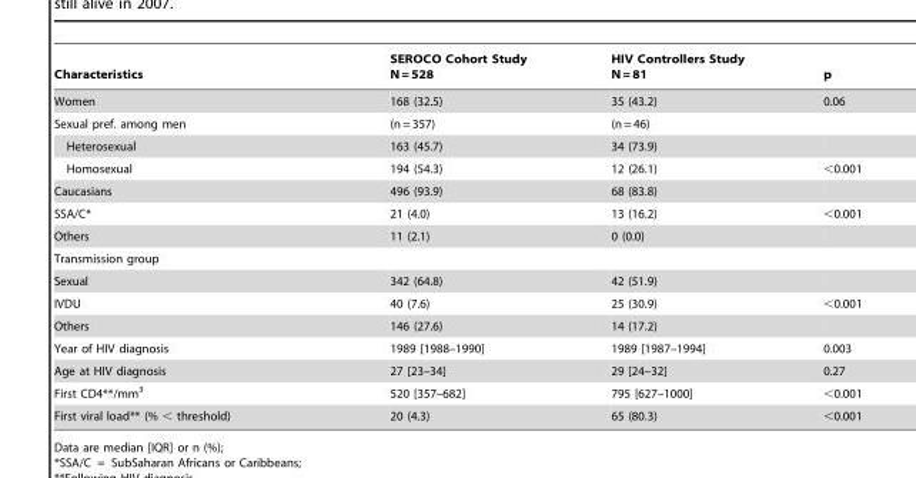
<table><thead><tr><td>Characteristics</td><td>SEROCO Cohort Study N = 528</td><td>HIV Controllers Study N = 81</td><td>p</td></tr></thead><tbody><tr><td>Women</td><td>168 (32.5)</td><td>35 (43.2)</td><td>0.06</td></tr><tr><td>Sexual pref. among men</td><td>(n = 357)</td><td>(n = 46)</td><td></td></tr><tr><td>Heterosexual</td><td>163 (45.7)</td><td>34 (73.9)</td><td></td></tr><tr><td>Homosexual</td><td>194 (54.3)</td><td>12 (26.1)</td><td>&lt;0.001</td></tr><tr><td>Caucasians</td><td>496 (93.9)</td><td>68 (83.8)</td><td></td></tr><tr><td>SSA/C*</td><td>21 (4.0)</td><td>13 (16.2)</td><td>&lt;0.001</td></tr><tr><td>Others</td><td>11 (2.1)</td><td>0 (0.0)</td><td></td></tr><tr><td colspan="4">Transmission group</td></tr><tr><td>Sexual</td><td>342 (64.8)</td><td>42 (51.9)</td><td></td></tr><tr><td>IVDU</td><td>40 (7.6)</td><td>25 (30.9)</td><td>&lt;0.001</td></tr><tr><td>Others</td><td>146 (27.6)</td><td>14 (17.2)</td><td></td></tr><tr><td>Year of HIV diagnosis</td><td>1989 [1988–1990]</td><td>1989 [1987–1994]</td><td>0.003</td></tr><tr><td>Age at HIV diagnosis</td><td>27 [23–34]</td><td>29 [24–32]</td><td>0.27</td></tr><tr><td>First CD4**/mm<sup>3</sup></td><td>520 [357–682]</td><td>795 [627–1000]</td><td>&lt;0.001</td></tr><tr><td>First viral load** (% &lt; threshold)</td><td>20 (4.3)</td><td>65 (80.3)</td><td>&lt;0.001</td></tr></tbody></table>